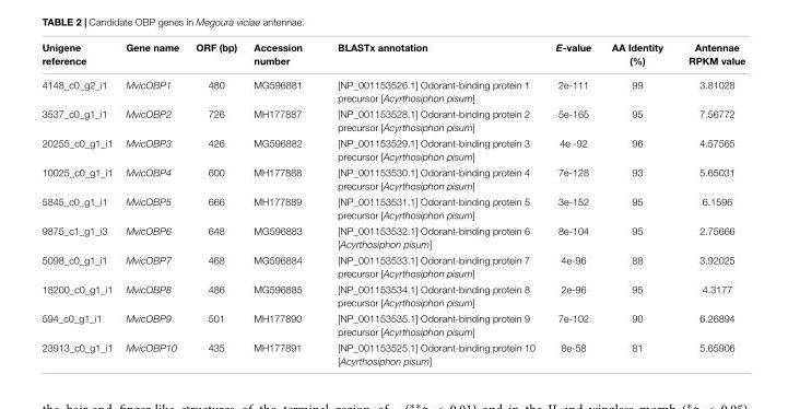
<table><thead><tr><td>Unigene reference</td><td>Gene name</td><td>ORF (bp)</td><td>Accession number</td><td>BLASTx annotation</td><td>E-value</td><td>AA Identity (%)</td><td>Antennae RPKM value</td></tr></thead><tbody><tr><td>4148_c0_g2_i1</td><td>MvicOBP1</td><td>480</td><td>MG596881</td><td>[NP_001153526.1] Odorant-binding protein 1 precursor [Acyrthosiphon pisum]</td><td>2e-111</td><td>99</td><td>3.81028</td></tr><tr><td>3537_c0_g1_i1</td><td>MvicOBP2</td><td>726</td><td>MH177887</td><td>[NP_001153528.1] Odorant-binding protein 2 precursor [Acyrthosiphon pisum]</td><td>5e-165</td><td>95</td><td>7.56772</td></tr><tr><td>20255_c0_g1_i1</td><td>MvicOBP3</td><td>426</td><td>MG596882</td><td>[NP_001153529.1] Odorant-binding protein 3 precursor [Acyrthosiphon pisum]</td><td>4e -92</td><td>96</td><td>4.57565</td></tr><tr><td>10025_c0_g1_i1</td><td>MvicOBP4</td><td>600</td><td>MH177888</td><td>[NP_001153530.1] Odorant-binding protein 4 precursor [Acyrthosiphon pisum]</td><td>7e-128</td><td>93</td><td>5.65031</td></tr><tr><td>5845_c0_g1_i1</td><td>MvicOBP5</td><td>666</td><td>MH177889</td><td>[NP_001153531.1] Odorant-binding protein 5 precursor [Acyrthosiphon pisum]</td><td>3e-152</td><td>95</td><td>6.1596</td></tr><tr><td>9875_c1_g1_i3</td><td>MvicOBP6</td><td>648</td><td>MG596883</td><td>[NP_001153532.1] Odorant-binding protein 6 [Acyrthosiphon pisum]</td><td>8e-104</td><td>95</td><td>2.75666</td></tr><tr><td>5098_c0_g1_i1</td><td>MvicOBP7</td><td>468</td><td>MG596884</td><td>[NP_001153533.1] Odorant-binding protein 7 precursor [Acyrthosiphon pisum]</td><td>4e-96</td><td>88</td><td>3.92025</td></tr><tr><td>18200_c0_g1_i1</td><td>MvicOBP8</td><td>486</td><td>MG596885</td><td>[NP_001153534.1] Odorant-binding protein 8 precursor [Acyrthosiphon pisum]</td><td>2e-96</td><td>95</td><td>4.3177</td></tr><tr><td>594_c0_g1_i1</td><td>MvicOBP9</td><td>501</td><td>MH177890</td><td>[NP_001153535.1] Odorant-binding protein 9 precursor [Acyrthosiphon pisum]</td><td>7e-102</td><td>90</td><td>6.26894</td></tr><tr><td>23913_c0_g1_i1</td><td>MvicOBP10</td><td>435</td><td>MH177891</td><td>[NP_001153525.1] Odorant-binding protein 10 [Acyrthosiphon pisum]</td><td>8e-58</td><td>81</td><td>5.65906</td></tr></tbody></table>